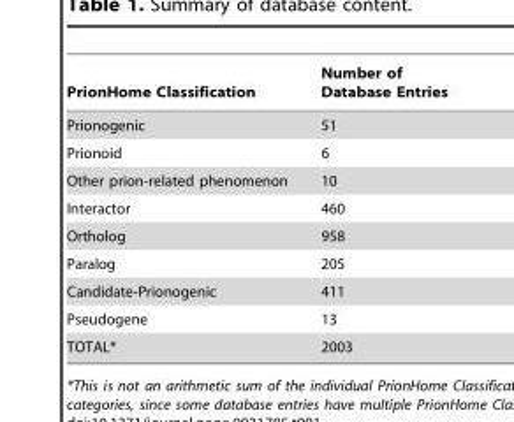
<table><thead><tr><td>PrionHome Classification</td><td>Number of Database Entries</td></tr></thead><tbody><tr><td>Prionogenic</td><td>51</td></tr><tr><td>Prionoid</td><td>6</td></tr><tr><td>Other prion-related phenomenon</td><td>10</td></tr><tr><td>Interactor</td><td>460</td></tr><tr><td>Ortholog</td><td>958</td></tr><tr><td>Paralog</td><td>205</td></tr><tr><td>Candidate-Prionogenic</td><td>411</td></tr><tr><td>Pseudogene</td><td>13</td></tr><tr><td>TOTAL*</td><td>2003</td></tr></tbody></table>